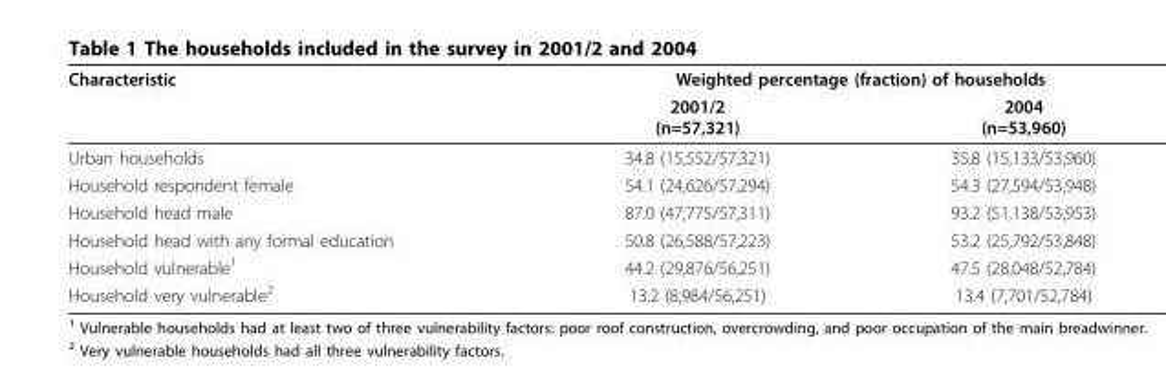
<table><thead><tr><td rowspan="2">Characteristic</td><td colspan="2">Weighted percentage (fraction) of households</td></tr><tr><td>2001/2 (n=57,321)</td><td>2004 (n=53,960)</td></tr></thead><tbody><tr><td>Urban households</td><td>34.8 (15,552/57,321)</td><td>35.8 (15,133/53,960)</td></tr><tr><td>Household respondent female</td><td>54.1 (24,626/57,294)</td><td>54.3 (27,594/53,948)</td></tr><tr><td>Household head male</td><td>87.0 (47,775/57,311)</td><td>93.2 (51,138/53,953)</td></tr><tr><td>Household head with any formal education</td><td>50.8 (26,588/57,223)</td><td>53.2 (25,792/53,848)</td></tr><tr><td>Household vulnerable<sup>1</sup></td><td>44.2 (29,876/56,251)</td><td>47.5 (28,048/52,784)</td></tr><tr><td>Household very vulnerable<sup>2</sup></td><td>13.2 (8,984/56,251)</td><td>13.4 (7,701/52,784)</td></tr></tbody></table>